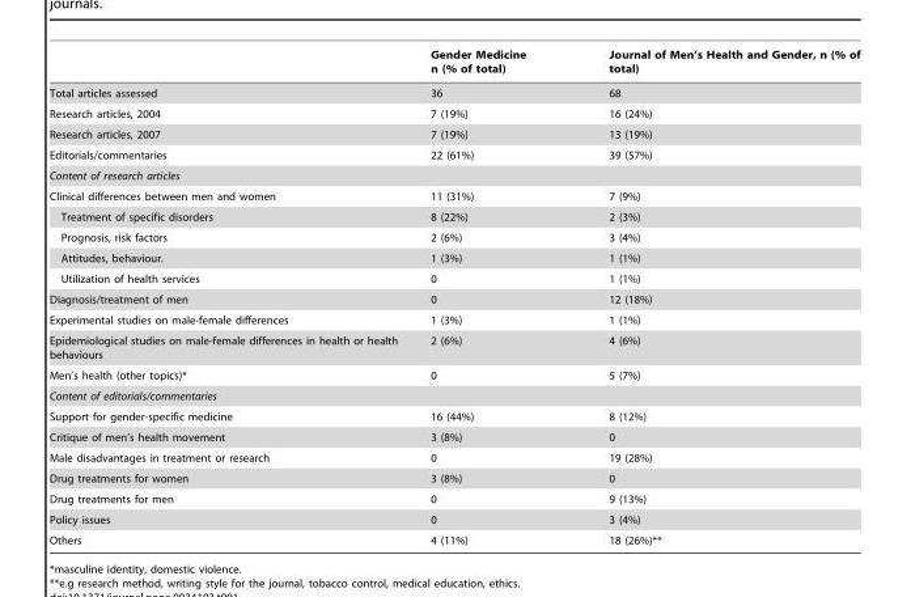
<table><thead><tr><td></td><td>Gender Medicine n (% of total)</td><td>Journal of Men’s Health and Gender, n (% of total)</td></tr></thead><tbody><tr><td>Total articles assessed</td><td>36</td><td>68</td></tr><tr><td>Research articles, 2004</td><td>7 (19%)</td><td>16 (24%)</td></tr><tr><td>Research articles, 2007</td><td>7 (19%)</td><td>13 (19%)</td></tr><tr><td>Editorials/commentaries</td><td>22 (61%)</td><td>39 (57%)</td></tr><tr><td colspan="3">Content of research articles</td></tr><tr><td>Clinical differences between men and women</td><td>11 (31%)</td><td>7 (9%)</td></tr><tr><td>Treatment of specific disorders</td><td>8 (22%)</td><td>2 (3%)</td></tr><tr><td>Prognosis, risk factors</td><td>2 (6%)</td><td>3 (4%)</td></tr><tr><td>Attitudes, behaviour.</td><td>1 (3%)</td><td>1 (1%)</td></tr><tr><td>Utilization of health services</td><td>0</td><td>1 (1%)</td></tr><tr><td>Diagnosis/treatment of men</td><td>0</td><td>12 (18%)</td></tr><tr><td>Experimental studies on male-female differences</td><td>1 (3%)</td><td>1 (1%)</td></tr><tr><td>Epidemiological studies on male-female differences in health or health behaviours</td><td>2 (6%)</td><td>4 (6%)</td></tr><tr><td>Men’s health (other topics)*</td><td>0</td><td>5 (7%)</td></tr><tr><td colspan="3">Content of editorials/commentaries</td></tr><tr><td>Support for gender-specific medicine</td><td>16 (44%)</td><td>8 (12%)</td></tr><tr><td>Critique of men’s health movement</td><td>3 (8%)</td><td>0</td></tr><tr><td>Male disadvantages in treatment or research</td><td>0</td><td>19 (28%)</td></tr><tr><td>Drug treatments for women</td><td>3 (8%)</td><td>0</td></tr><tr><td>Drug treatments for men</td><td>0</td><td>9 (13%)</td></tr><tr><td>Policy issues</td><td>0</td><td>3 (4%)</td></tr><tr><td>Others</td><td>4 (11%)</td><td>18 (26%)**</td></tr></tbody></table>